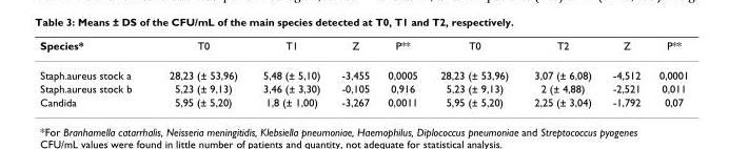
<table><thead><tr><td>Species*</td><td>T0</td><td>T1</td><td>Z</td><td>P**</td><td>T0</td><td>T2</td><td>Z</td><td>P**</td></tr></thead><tbody><tr><td>Staph.aureus stock a</td><td>28,23 (± 53,96)</td><td>5,48 (± 5,10)</td><td>-3,455</td><td>0,0005</td><td>28,23 (± 53,96)</td><td>3,07 (± 6,08)</td><td>-4,512</td><td>0,0001</td></tr><tr><td>Staph.aureus stock b</td><td>5,23 (± 9,13)</td><td>3,46 (± 3,30)</td><td>-0,105</td><td>0,916</td><td>5,23 (± 9,13)</td><td>2 (± 4,88)</td><td>-2,521</td><td>0,011</td></tr><tr><td>Candida</td><td>5,95 (± 5,20)</td><td>1,8 (± 1,00)</td><td>-3,267</td><td>0,0011</td><td>5,95 (± 5,20)</td><td>2,25 (± 3,04)</td><td>-1,792</td><td>0,07</td></tr></tbody></table>